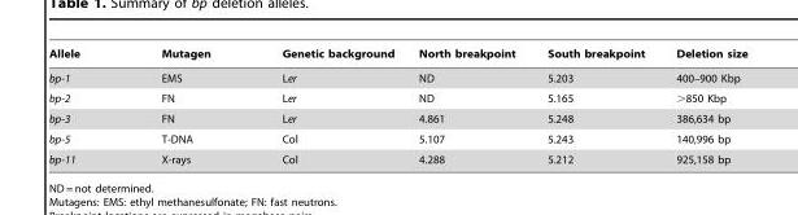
<table><thead><tr><td>Allele</td><td>Mutagen</td><td>Genetic background</td><td>North breakpoint</td><td>South breakpoint</td><td>Deletion size</td></tr></thead><tbody><tr><td>bp-1</td><td>EMS</td><td>Ler</td><td>ND</td><td>5.203</td><td>400–900 Kbp</td></tr><tr><td>bp-2</td><td>FN</td><td>Ler</td><td>ND</td><td>5.165</td><td>&gt;850 Kbp</td></tr><tr><td>bp-3</td><td>FN</td><td>Ler</td><td>4.861</td><td>5.248</td><td>386,634 bp</td></tr><tr><td>bp-5</td><td>T-DNA</td><td>Col</td><td>5.107</td><td>5.243</td><td>140,996 bp</td></tr><tr><td>bp-11</td><td>X-rays</td><td>Col</td><td>4.288</td><td>5.212</td><td>925,158 bp</td></tr></tbody></table>